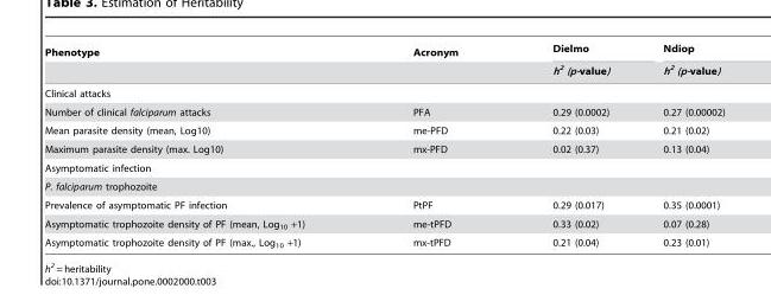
<table><thead><tr><td rowspan="2">Phenotype</td><td rowspan="2">Acronym</td><td rowspan="2">Dielmo h<sup>2</sup> (p-value)</td><td rowspan="2">Ndiop h<sup>2</sup> (p-value)</td></tr><tr></tr></thead><tbody><tr><td colspan="4">Clinical attacks</td></tr><tr><td>Number of clinical falciparum attacks</td><td>PFA</td><td>0.29 (0.0002)</td><td>0.27 (0.00002)</td></tr><tr><td>Mean parasite density (mean, Log10)</td><td>me-PFD</td><td>0.22 (0.03)</td><td>0.21 (0.02)</td></tr><tr><td>Maximum parasite density (max. Log10)</td><td>mx-PFD</td><td>0.02 (0.37)</td><td>0.13 (0.04)</td></tr><tr><td colspan="4">Asymptomatic infection</td></tr><tr><td colspan="4">P. falciparum trophozoite</td></tr><tr><td>Prevalence of asymptomatic PF infection</td><td>PtPF</td><td>0.29 (0.017)</td><td>0.35 (0.0001)</td></tr><tr><td>Asymptomatic trophozoite density of PF (mean, Log<sub>10</sub> +1)</td><td>me-tPFD</td><td>0.33 (0.02)</td><td>0.07 (0.28)</td></tr><tr><td>Asymptomatic trophozoite density of PF (max., Log<sub>10</sub> +1)</td><td>mx-tPFD</td><td>0.21 (0.04)</td><td>0.23 (0.01)</td></tr></tbody></table>